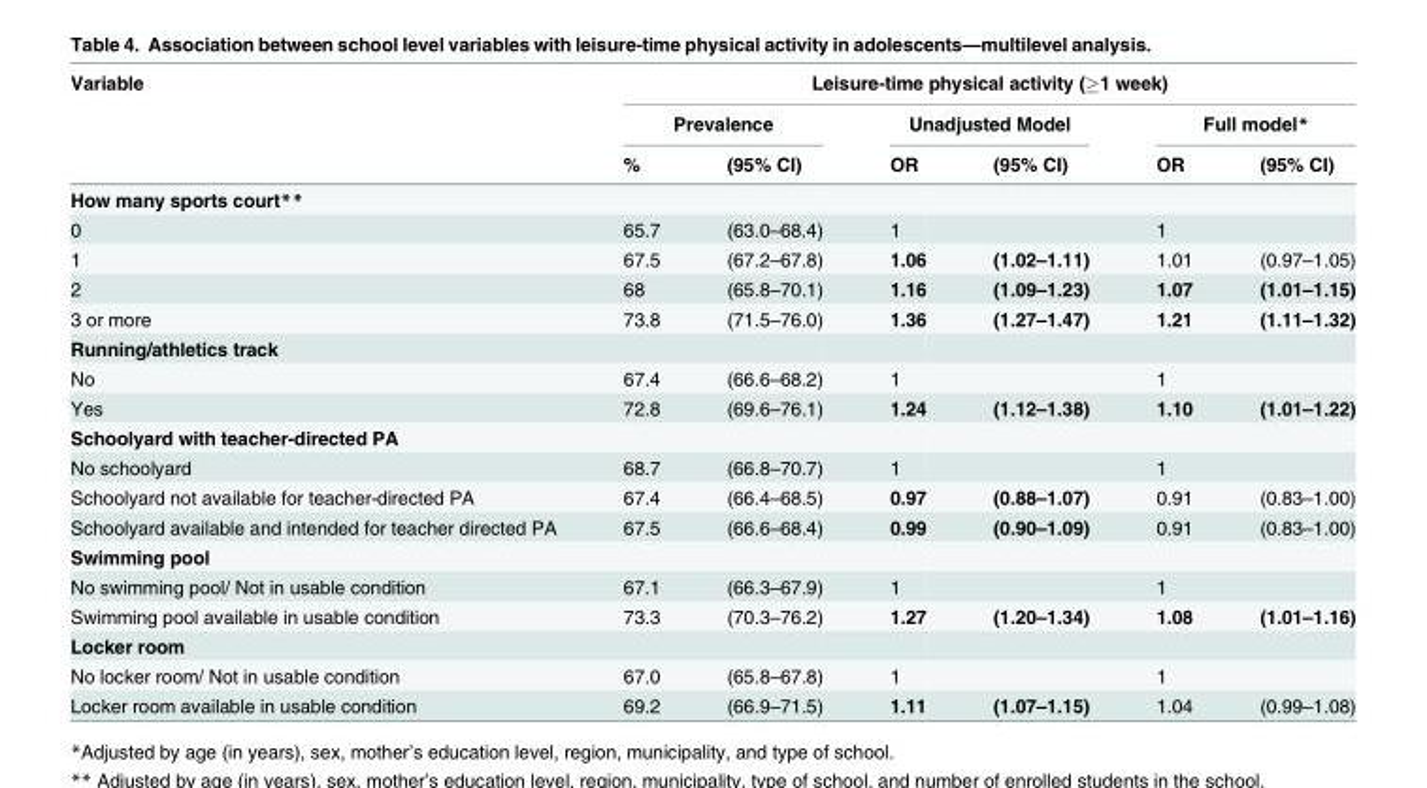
<table><thead><tr><td rowspan="3">Variable</td><td colspan="6">Leisure-time physical activity (≥1 week)</td></tr><tr><td colspan="2">Prevalence</td><td colspan="2">Unadjusted Model</td><td colspan="2">Full model*</td></tr><tr><td>%</td><td>(95% CI)</td><td>OR</td><td>(95% CI)</td><td>OR</td><td>(95% CI)</td></tr></thead><tbody><tr><td colspan="7">How many sports court**</td></tr><tr><td>0</td><td>65.7</td><td>(63.0–68.4)</td><td>1</td><td></td><td>1</td><td></td></tr><tr><td>1</td><td>67.5</td><td>(67.2–67.8)</td><td>1.06</td><td>(1.02–1.11)</td><td>1.01</td><td>(0.97–1.05)</td></tr><tr><td>2</td><td>68</td><td>(65.8–70.1)</td><td>1.16</td><td>(1.09–1.23)</td><td>1.07</td><td>(1.01–1.15)</td></tr><tr><td>3 or more</td><td>73.8</td><td>(71.5–76.0)</td><td>1.36</td><td>(1.27–1.47)</td><td>1.21</td><td>(1.11–1.32)</td></tr><tr><td colspan="7">Running/athletics track</td></tr><tr><td>No</td><td>67.4</td><td>(66.6–68.2)</td><td>1</td><td></td><td>1</td><td></td></tr><tr><td>Yes</td><td>72.8</td><td>(69.6–76.1)</td><td>1.24</td><td>(1.12–1.38)</td><td>1.10</td><td>(1.01–1.22)</td></tr><tr><td colspan="7">Schoolyard with teacher-directed PA</td></tr><tr><td>No schoolyard</td><td>68.7</td><td>(66.8–70.7)</td><td>1</td><td></td><td>1</td><td></td></tr><tr><td>Schoolyard not available for teacher-directed PA</td><td>67.4</td><td>(66.4–68.5)</td><td>0.97</td><td>(0.88–1.07)</td><td>0.91</td><td>(0.83–1.00)</td></tr><tr><td>Schoolyard available and intended for teacher directed PA</td><td>67.5</td><td>(66.6–68.4)</td><td>0.99</td><td>(0.90–1.09)</td><td>0.91</td><td>(0.83–1.00)</td></tr><tr><td colspan="7">Swimming pool</td></tr><tr><td>No swimming pool/ Not in usable condition</td><td>67.1</td><td>(66.3–67.9)</td><td>1</td><td></td><td>1</td><td></td></tr><tr><td>Swimming pool available in usable condition</td><td>73.3</td><td>(70.3–76.2)</td><td>1.27</td><td>(1.20–1.34)</td><td>1.08</td><td>(1.01–1.16)</td></tr><tr><td colspan="7">Locker room</td></tr><tr><td>No locker room/ Not in usable condition</td><td>67.0</td><td>(65.8–67.8)</td><td>1</td><td></td><td>1</td><td></td></tr><tr><td>Locker room available in usable condition</td><td>69.2</td><td>(66.9–71.5)</td><td>1.11</td><td>(1.07–1.15)</td><td>1.04</td><td>(0.99–1.08)</td></tr></tbody></table>